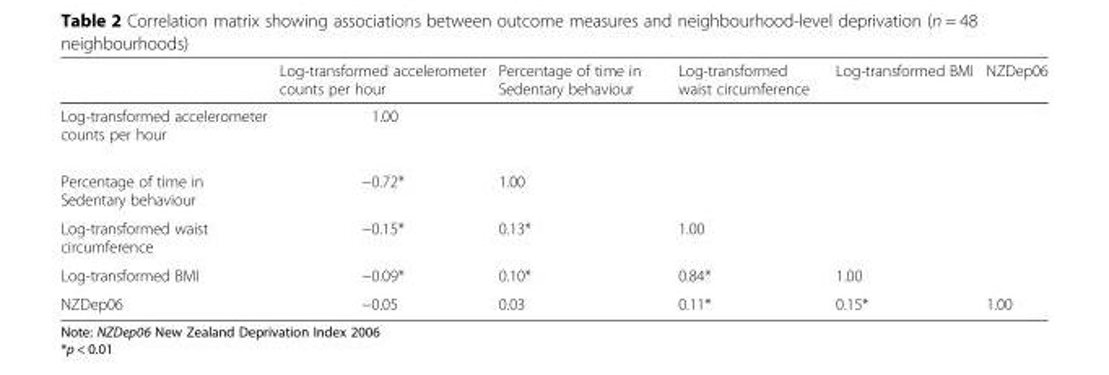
<table><thead><tr><td></td><td>Log-transformed accelerometer counts per hour</td><td>Percentage of time in Sedentary behaviour</td><td>Log-transformed waist circumference</td><td>Log-transformed BMI</td><td>NZDep06</td></tr></thead><tbody><tr><td>Log-transformed accelerometer counts per hour</td><td>1.00</td><td></td><td></td><td></td><td></td></tr><tr><td>Percentage of time in Sedentary behaviour</td><td>−0.72*</td><td>1.00</td><td></td><td></td><td></td></tr><tr><td>Log-transformed waist circumference</td><td>−0.15*</td><td>0.13*</td><td>1.00</td><td></td><td></td></tr><tr><td>Log-transformed BMI</td><td>−0.09*</td><td>0.10*</td><td>0.84*</td><td>1.00</td><td></td></tr><tr><td>NZDep06</td><td>−0.05</td><td>0.03</td><td>0.11*</td><td>0.15*</td><td>1.00</td></tr></tbody></table>